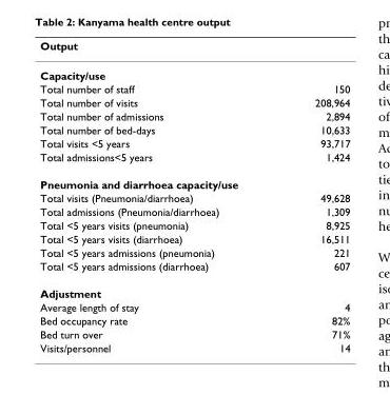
<table><thead><tr><td>Output</td><td></td></tr></thead><tbody><tr><td colspan="2">Capacity/use</td></tr><tr><td>Total number of staff</td><td>150</td></tr><tr><td>Total number of visits</td><td>208,964</td></tr><tr><td>Total number of admissions</td><td>2,894</td></tr><tr><td>Total number of bed-days</td><td>10,633</td></tr><tr><td>Total visits &lt;5 years</td><td>93,717</td></tr><tr><td>Total admissions&lt;5 years</td><td>1,424</td></tr><tr><td colspan="2">Pneumonia and diarrhoea capacity/use</td></tr><tr><td>Total visits (Pneumonia/diarrhoea)</td><td>49,628</td></tr><tr><td>Total admissions (Pneumonia/diarrhoea)</td><td>1,309</td></tr><tr><td>Total &lt;5 years visits (pneumonia)</td><td>8,925</td></tr><tr><td>Total &lt;5 years visits (diarrhoea)</td><td>16,511</td></tr><tr><td>Total &lt;5 years admissions (pneumonia)</td><td>221</td></tr><tr><td>Total &lt;5 years admissions (diarrhoea)</td><td>607</td></tr><tr><td colspan="2">Adjustment</td></tr><tr><td>Average length of stay</td><td>4</td></tr><tr><td>Bed occupancy rate</td><td>82%</td></tr><tr><td>Bed turn over</td><td>71%</td></tr><tr><td>Visits/personnel</td><td>14</td></tr></tbody></table>